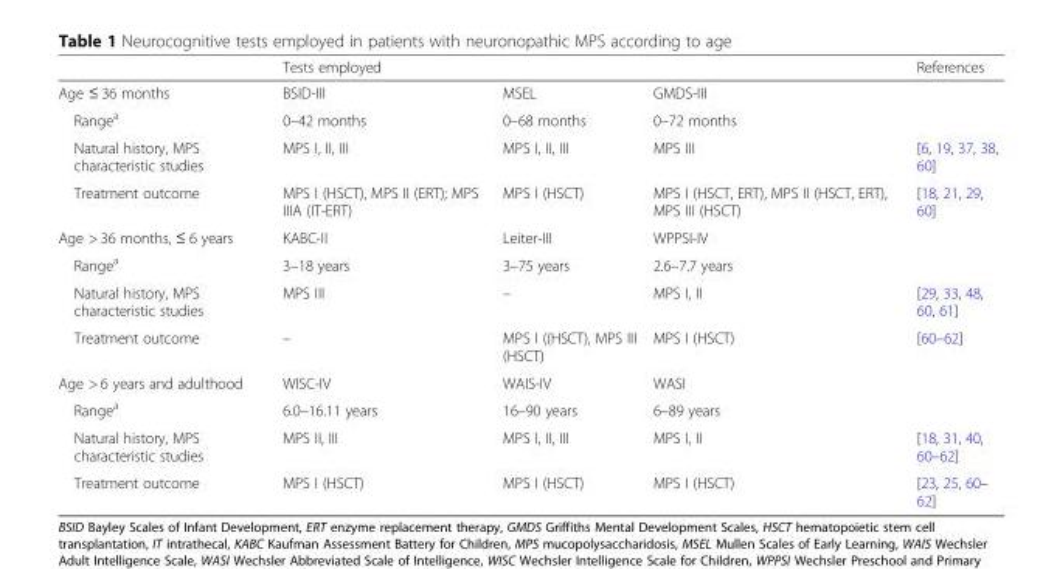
<table><thead><tr><td rowspan="2">Age ≤ 36 months</td><td colspan="3">Tests employed</td><td rowspan="2">References</td></tr><tr><td>BSID-III</td><td>MSEL</td><td>GMDS-III</td></tr></thead><tbody><tr><td>Range<sup>a</sup></td><td>0–42 months</td><td>0–68 months</td><td>0–72 months</td><td></td></tr><tr><td>Natural history, MPS characteristic studies</td><td>MPS I, II, III</td><td>MPS I, II, III</td><td>MPS III</td><td>[6, 19, 37, 38, 60]</td></tr><tr><td>Treatment outcome</td><td>MPS I (HSCT), MPS II (ERT); MPS IIIA (IT-ERT)</td><td>MPS I (HSCT)</td><td>MPS I (HSCT, ERT), MPS II (HSCT, ERT), MPS III (HSCT)</td><td>[18, 21, 29, 60]</td></tr><tr><td>Age &gt; 36 months, ≤ 6 years</td><td>KABC-II</td><td>Leiter-III</td><td>WPPSI-IV</td><td></td></tr><tr><td>Range<sup>a</sup></td><td>3–18 years</td><td>3–75 years</td><td>2.6–7.7 years</td><td></td></tr><tr><td>Natural history, MPS characteristic studies</td><td>MPS III</td><td>–</td><td>MPS I, II</td><td>[29, 33, 48, 60, 61]</td></tr><tr><td>Treatment outcome</td><td>–</td><td>MPS I ((HSCT), MPS III (HSCT)</td><td>MPS I (HSCT)</td><td>[60–62]</td></tr><tr><td>Age &gt; 6 years and adulthood</td><td>WISC-IV</td><td>WAIS-IV</td><td>WASI</td><td></td></tr><tr><td>Range<sup>a</sup></td><td>6.0–16.11 years</td><td>16–90 years</td><td>6–89 years</td><td></td></tr><tr><td>Natural history, MPS characteristic studies</td><td>MPS II, III</td><td>MPS I, II, III</td><td>MPS I, II</td><td>[18, 31, 40, 60–62]</td></tr><tr><td>Treatment outcome</td><td>MPS I (HSCT)</td><td>MPS I (HSCT)</td><td>MPS I (HSCT)</td><td>[23, 25, 60– 62]</td></tr></tbody></table>